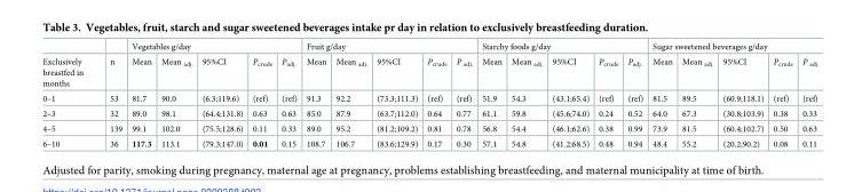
<table><thead><tr><td rowspan="2">Exclusively breastfed in months</td><td rowspan="2">n</td><td colspan="5">Vegetables g/day</td><td colspan="5">Fruit g/day</td><td colspan="5">Starchy foods g/day</td><td colspan="5">Sugar sweetened beverages g/day</td></tr><tr><td>Mean</td><td>Mean <sub>adj.</sub></td><td>95%CI</td><td>P<sub>crude</sub></td><td>P<sub>adj.</sub></td><td>Mean</td><td>Mean <sub>adj.</sub></td><td>95%CI</td><td>P<sub>crude</sub></td><td>P <sub>adj.</sub></td><td>Mean</td><td>Mean <sub>adj.</sub></td><td>95%CI</td><td>P<sub>crude</sub></td><td>P<sub>adj.</sub></td><td>Mean</td><td>Mean <sub>adj.</sub></td><td>95%CI</td><td>P<sub>crude</sub></td><td>P <sub>adj.</sub></td></tr></thead><tbody><tr><td>0–1</td><td>53</td><td>81.7</td><td>90.0</td><td>(6.3;119.6)</td><td>(ref)</td><td>(ref)</td><td>91.3</td><td>92.2</td><td>(73.3;111.3)</td><td>(ref)</td><td>(ref)</td><td>51.9</td><td>54.3</td><td>(43.1;65.4)</td><td>(ref)</td><td>(ref)</td><td>81.5</td><td>89.5</td><td>(60.9;118.1)</td><td>(ref)</td><td>(ref)</td></tr><tr><td>2–3</td><td>32</td><td>89.0</td><td>98.1</td><td>(64.4;131.8)</td><td>0.63</td><td>0.63</td><td>85.0</td><td>87.9</td><td>(63.7;112.0)</td><td>0.64</td><td>0.77</td><td>61.1</td><td>59.8</td><td>(45.6;74.0)</td><td>0.24</td><td>0.52</td><td>64.0</td><td>67.3</td><td>(30.8;103.9)</td><td>0.38</td><td>0.33</td></tr><tr><td>4–5</td><td>139</td><td>99.1</td><td>102.0</td><td>(75.5;128.6)</td><td>0.11</td><td>0.33</td><td>89.0</td><td>95.2</td><td>(81.2;109.2)</td><td>0.81</td><td>0.78</td><td>56.8</td><td>54.4</td><td>(46.1;62.6)</td><td>0.38</td><td>0.99</td><td>73.9</td><td>81.5</td><td>(60.4;102.7)</td><td>0.50</td><td>0.63</td></tr><tr><td>6–10</td><td>36</td><td>117.3</td><td>113.1</td><td>(79.3;147.0)</td><td>0.01</td><td>0.15</td><td>108.7</td><td>106.7</td><td>(83.6;129.9)</td><td>0.17</td><td>0.30</td><td>57.1</td><td>54.8</td><td>(41.2;68.5)</td><td>0.48</td><td>0.94</td><td>48.4</td><td>55.2</td><td>(20.2;90.2)</td><td>0.08</td><td>0.11</td></tr></tbody></table>